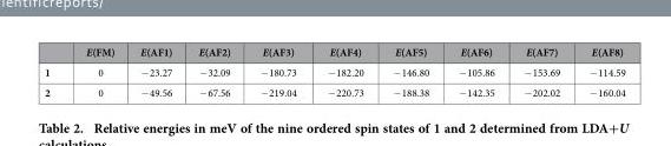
<table><thead><tr><td></td><td>E(FM)</td><td>E(AF1)</td><td>E(AF2)</td><td>E(AF3)</td><td>E(AF4)</td><td>E(AF5)</td><td>E(AF6)</td><td>E(AF7)</td><td>E(AF8)</td></tr></thead><tbody><tr><td>1</td><td>0</td><td>− 23.27</td><td>− 32.09</td><td>− 180.73</td><td>− 182.20</td><td>− 146.80</td><td>− 105.86</td><td>− 153.69</td><td>− 114.59</td></tr><tr><td>2</td><td>0</td><td>− 49.56</td><td>− 67.56</td><td>− 219.04</td><td>− 220.73</td><td>− 188.38</td><td>− 142.35</td><td>− 202.02</td><td>− 160.04</td></tr></tbody></table>